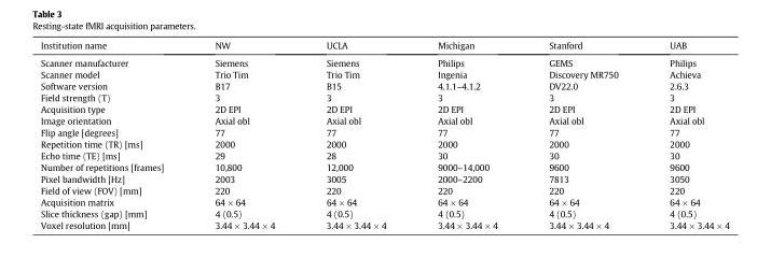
<table><thead><tr><td>Institution name</td><td>NW</td><td>UCLA</td><td>Michigan</td><td>Stanford</td><td>UAB</td></tr></thead><tbody><tr><td>Scanner manufacturer</td><td>Siemens</td><td>Siemens</td><td>Philips</td><td>GEMS</td><td>Philips</td></tr><tr><td>Scanner model</td><td>Trio Tim</td><td>Trio Tim</td><td>Ingenia</td><td>Discovery MR750</td><td>Achieva</td></tr><tr><td>Software version</td><td>B17</td><td>B15</td><td>4.1.1–4.1.2</td><td>DV22.0</td><td>2.6.3</td></tr><tr><td>Field strength (T)</td><td>3</td><td>3</td><td>3</td><td>3</td><td>3</td></tr><tr><td>Acquisition type</td><td>2D EPI</td><td>2D EPI</td><td>2D EPI</td><td>2D EPI</td><td>2D EPI</td></tr><tr><td>Image orientation</td><td>Axial obl</td><td>Axial obl</td><td>Axial obl</td><td>Axial obl</td><td>Axial obl</td></tr><tr><td>Flip angle [degrees]</td><td>77</td><td>77</td><td>77</td><td>77</td><td>77</td></tr><tr><td>Repetition time (TR) [ms]</td><td>2000</td><td>2000</td><td>2000</td><td>2000</td><td>2000</td></tr><tr><td>Echo time (TE) [ms]</td><td>29</td><td>28</td><td>30</td><td>30</td><td>30</td></tr><tr><td>Number of repetitions [frames]</td><td>10,800</td><td>12,000</td><td>9000–14,000</td><td>9600</td><td>9600</td></tr><tr><td>Pixel bandwidth [Hz]</td><td>2003</td><td>3005</td><td>2000–2200</td><td>7813</td><td>3050</td></tr><tr><td>Field of view (FOV) [mm]</td><td>220</td><td>220</td><td>220</td><td>220</td><td>220</td></tr><tr><td>Acquisition matrix</td><td>64 × 64</td><td>64 × 64</td><td>64 × 64</td><td>64 × 64</td><td>64 × 64</td></tr><tr><td>Slice thickness (gap) [mm]</td><td>4 (0.5)</td><td>4 (0.5)</td><td>4 (0.5)</td><td>4 (0.5)</td><td>4 (0.5)</td></tr><tr><td>Voxel resolution [mm]</td><td>3.44 × 3.44 × 4</td><td>3.44 × 3.44 × 4</td><td>3.44 × 3.44 × 4</td><td>3.44 × 3.44 × 4</td><td>3.44 × 3.44 × 4</td></tr></tbody></table>